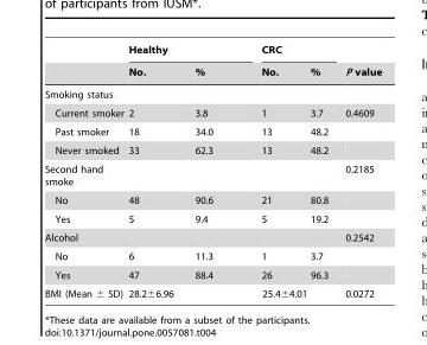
<table><thead><tr><td rowspan="2"></td><td colspan="2">Healthy</td><td colspan="2">CRC</td><td rowspan="2">P value</td></tr><tr><td>No.</td><td>%</td><td>No.</td><td>%</td></tr></thead><tbody><tr><td colspan="6">Smoking status</td></tr><tr><td>Current smoker</td><td>2</td><td>3.8</td><td>1</td><td>3.7</td><td>0.4609</td></tr><tr><td>Past smoker</td><td>18</td><td>34.0</td><td>13</td><td>48.2</td><td></td></tr><tr><td>Never smoked</td><td>33</td><td>62.3</td><td>13</td><td>48.2</td><td></td></tr><tr><td>Second hand smoke</td><td></td><td></td><td></td><td></td><td>0.2185</td></tr><tr><td>No</td><td>48</td><td>90.6</td><td>21</td><td>80.8</td><td></td></tr><tr><td>Yes</td><td>5</td><td>9.4</td><td>5</td><td>19.2</td><td></td></tr><tr><td>Alcohol</td><td></td><td></td><td></td><td></td><td>0.2542</td></tr><tr><td>No</td><td>6</td><td>11.3</td><td>1</td><td>3.7</td><td></td></tr><tr><td>Yes</td><td>47</td><td>88.4</td><td>26</td><td>96.3</td><td></td></tr><tr><td>BMI (Mean ± SD)</td><td>28.2±6.96</td><td></td><td colspan="2">25.4±4.01</td><td>0.0272</td></tr></tbody></table>